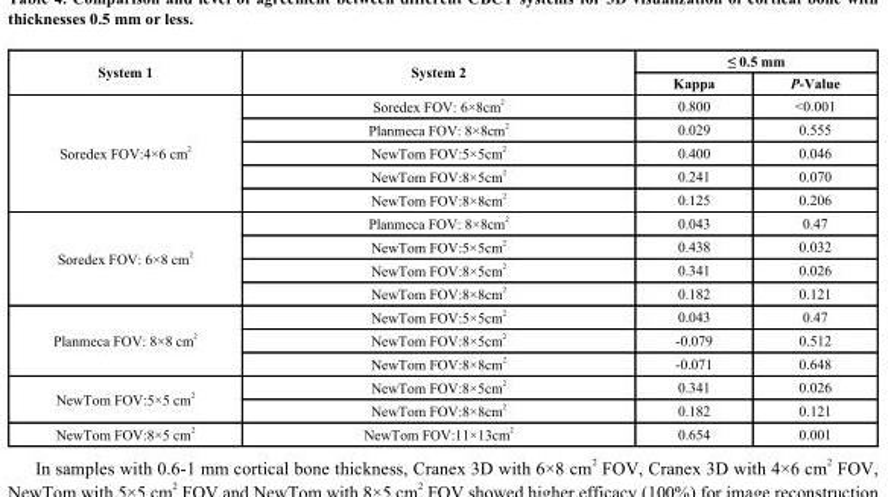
<table><thead><tr><td rowspan="2">System 1</td><td rowspan="2">System 2</td><td colspan="2">≤ 0.5 mm</td></tr><tr><td>Kappa</td><td>P-Value</td></tr></thead><tbody><tr><td rowspan="5">Soredex FOV:4×6 cm <sup>2</sup></td><td>Soredex FOV: 6×8cm <sup>2</sup></td><td>0.800</td><td>&lt;0.001</td></tr><tr><td>Planmeca FOV: 8×8cm <sup>2</sup></td><td>0.029</td><td>0.555</td></tr><tr><td>NewTom FOV:5×5cm <sup>2</sup></td><td>0.400</td><td>0.046</td></tr><tr><td>NewTom FOV:8×5cm <sup>2</sup></td><td>0.241</td><td>0.070</td></tr><tr><td>NewTom FOV:8×8cm <sup>2</sup></td><td>0.125</td><td>0.206</td></tr><tr><td rowspan="4">Soredex FOV: 6×8 cm <sup>2</sup></td><td>Planmeca FOV: 8×8cm <sup>2</sup></td><td>0.043</td><td>0.47</td></tr><tr><td>NewTom FOV:5×5cm <sup>2</sup></td><td>0.438</td><td>0.032</td></tr><tr><td>NewTom FOV:8×5cm <sup>2</sup></td><td>0.341</td><td>0.026</td></tr><tr><td>NewTom FOV:8×8cm <sup>2</sup></td><td>0.182</td><td>0.121</td></tr><tr><td rowspan="3">Planmeca FOV: 8×8 cm <sup>2</sup></td><td>NewTom FOV:5×5cm <sup>2</sup></td><td>0.043</td><td>0.47</td></tr><tr><td>NewTom FOV:8×5cm <sup>2</sup></td><td>-0.079</td><td>0.512</td></tr><tr><td>NewTom FOV:8×8cm <sup>2</sup></td><td>-0.071</td><td>0.648</td></tr><tr><td rowspan="2">NewTom FOV:5×5 cm <sup>2</sup></td><td>NewTom FOV:8×5cm <sup>2</sup></td><td>0.341</td><td>0.026</td></tr><tr><td>NewTom FOV:8×8cm <sup>2</sup></td><td>0.182</td><td>0.121</td></tr><tr><td>NewTom FOV:8×5 cm <sup>2</sup></td><td>NewTom FOV:11×13cm <sup>2</sup></td><td>0.654</td><td>0.001</td></tr></tbody></table>